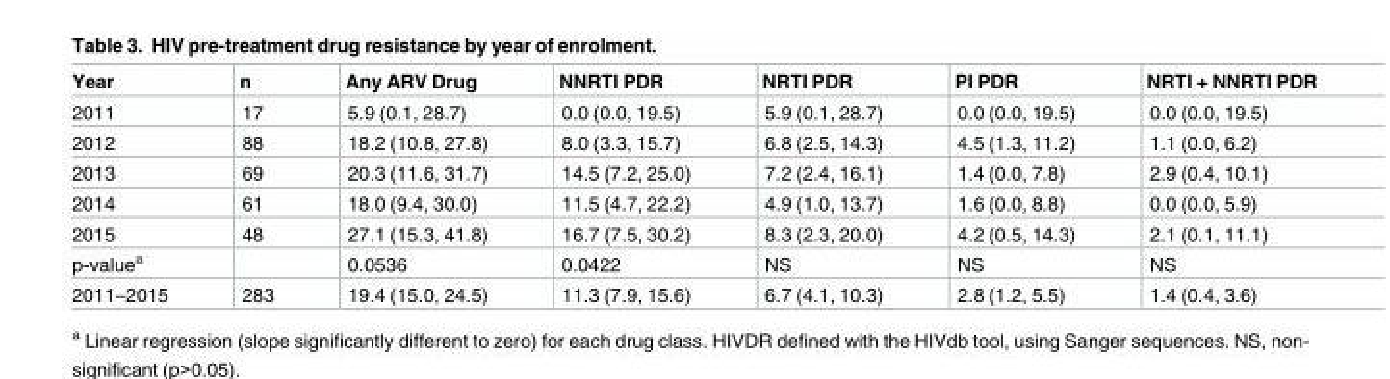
<table><thead><tr><td>Year</td><td>n</td><td>Any ARV Drug</td><td>NNRTI PDR</td><td>NRTI PDR</td><td>PI PDR</td><td>NRTI + NNRTI PDR</td></tr></thead><tbody><tr><td>2011</td><td>17</td><td>5.9 (0.1, 28.7)</td><td>0.0 (0.0, 19.5)</td><td>5.9 (0.1, 28.7)</td><td>0.0 (0.0, 19.5)</td><td>0.0 (0.0, 19.5)</td></tr><tr><td>2012</td><td>88</td><td>18.2 (10.8, 27.8)</td><td>8.0 (3.3, 15.7)</td><td>6.8 (2.5, 14.3)</td><td>4.5 (1.3, 11.2)</td><td>1.1 (0.0, 6.2)</td></tr><tr><td>2013</td><td>69</td><td>20.3 (11.6, 31.7)</td><td>14.5 (7.2, 25.0)</td><td>7.2 (2.4, 16.1)</td><td>1.4 (0.0, 7.8)</td><td>2.9 (0.4, 10.1)</td></tr><tr><td>2014</td><td>61</td><td>18.0 (9.4, 30.0)</td><td>11.5 (4.7, 22.2)</td><td>4.9 (1.0, 13.7)</td><td>1.6 (0.0, 8.8)</td><td>0.0 (0.0, 5.9)</td></tr><tr><td>2015</td><td>48</td><td>27.1 (15.3, 41.8)</td><td>16.7 (7.5, 30.2)</td><td>8.3 (2.3, 20.0)</td><td>4.2 (0.5, 14.3)</td><td>2.1 (0.1, 11.1)</td></tr><tr><td>p-value<sup>a</sup></td><td></td><td>0.0536</td><td>0.0422</td><td>NS</td><td>NS</td><td>NS</td></tr><tr><td>2011–2015</td><td>283</td><td>19.4 (15.0, 24.5)</td><td>11.3 (7.9, 15.6)</td><td>6.7 (4.1, 10.3)</td><td>2.8 (1.2, 5.5)</td><td>1.4 (0.4, 3.6)</td></tr></tbody></table>